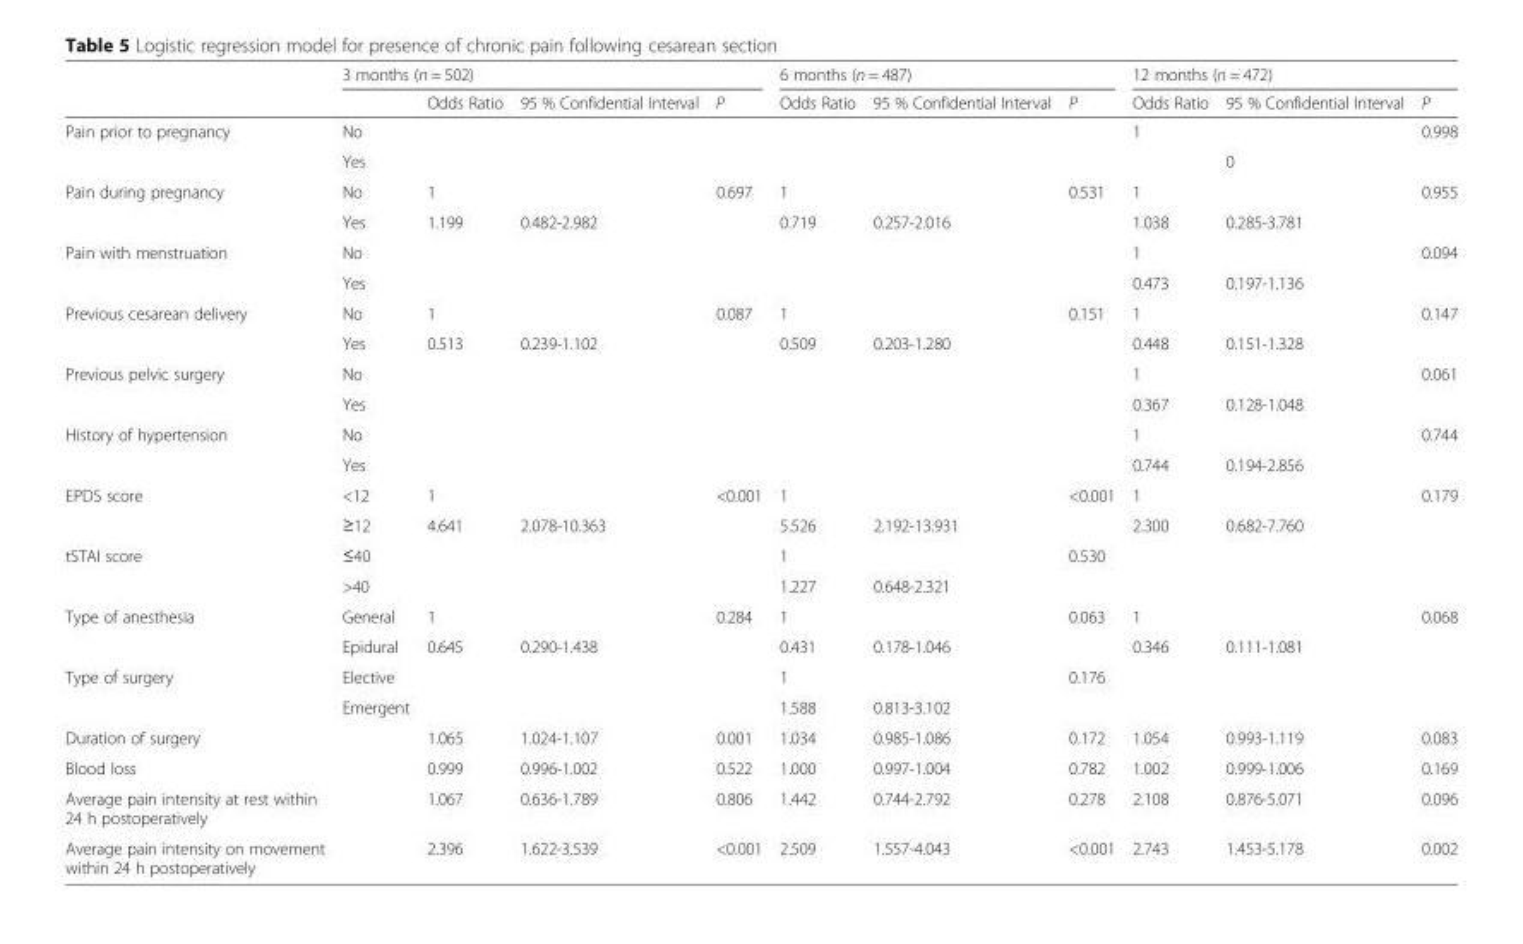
<table><thead><tr><td rowspan="2"></td><td colspan="4">3 months (n = 502)</td><td colspan="3">6 months (n = 487)</td><td colspan="3">12 months (n = 472)</td></tr><tr><td></td><td>Odds Ratio</td><td>95 % Confidential Interval</td><td>P</td><td>Odds Ratio</td><td>95 % Confidential Interval</td><td>P</td><td>Odds Ratio</td><td>95 % Confidential Interval</td><td>P</td></tr></thead><tbody><tr><td rowspan="2">Pain prior to pregnancy</td><td>No</td><td></td><td></td><td></td><td></td><td></td><td></td><td>1</td><td></td><td>0.998</td></tr><tr><td>Yes</td><td></td><td></td><td></td><td></td><td></td><td></td><td></td><td>0</td><td></td></tr><tr><td rowspan="2">Pain during pregnancy</td><td>No</td><td>1</td><td></td><td>0.697</td><td>1</td><td></td><td>0.531</td><td>1</td><td></td><td>0.955</td></tr><tr><td>Yes</td><td>1.199</td><td>0.482-2.982</td><td></td><td>0.719</td><td>0.257-2.016</td><td></td><td>1.038</td><td>0.285-3.781</td><td></td></tr><tr><td rowspan="2">Pain with menstruation</td><td>No</td><td></td><td></td><td></td><td></td><td></td><td></td><td>1</td><td></td><td>0.094</td></tr><tr><td>Yes</td><td></td><td></td><td></td><td></td><td></td><td></td><td>0.473</td><td>0.197-1.136</td><td></td></tr><tr><td rowspan="2">Previous cesarean delivery</td><td>No</td><td>1</td><td></td><td>0.087</td><td>1</td><td></td><td>0.151</td><td>1</td><td></td><td>0.147</td></tr><tr><td>Yes</td><td>0.513</td><td>0.239-1.102</td><td></td><td>0.509</td><td>0.203-1.280</td><td></td><td>0.448</td><td>0.151-1.328</td><td></td></tr><tr><td rowspan="2">Previous pelvic surgery</td><td>No</td><td></td><td></td><td></td><td></td><td></td><td></td><td>1</td><td></td><td>0.061</td></tr><tr><td>Yes</td><td></td><td></td><td></td><td></td><td></td><td></td><td>0.367</td><td>0.128-1.048</td><td></td></tr><tr><td rowspan="2">History of hypertension</td><td>No</td><td></td><td></td><td></td><td></td><td></td><td></td><td>1</td><td></td><td>0.744</td></tr><tr><td>Yes</td><td></td><td></td><td></td><td></td><td></td><td></td><td>0.744</td><td>0.194-2.856</td><td></td></tr><tr><td rowspan="2">EPDS score</td><td>&lt;12</td><td>1</td><td></td><td>&lt;0.001</td><td>1</td><td></td><td>&lt;0.001</td><td>1</td><td></td><td>0.179</td></tr><tr><td>≥12</td><td>4.641</td><td>2.078-10.363</td><td></td><td>5.526</td><td>2.192-13.931</td><td></td><td>2.300</td><td>0.682-7.760</td><td></td></tr><tr><td rowspan="2">tSTAI score</td><td>≤40</td><td></td><td></td><td></td><td>1</td><td></td><td>0.530</td><td></td><td></td><td></td></tr><tr><td>&gt;40</td><td></td><td></td><td></td><td>1.227</td><td>0.648-2.321</td><td></td><td></td><td></td><td></td></tr><tr><td rowspan="2">Type of anesthesia</td><td>General</td><td>1</td><td></td><td>0.284</td><td>1</td><td></td><td>0.063</td><td>1</td><td></td><td>0.068</td></tr><tr><td>Epidural</td><td>0.645</td><td>0.290-1.438</td><td></td><td>0.431</td><td>0.178-1.046</td><td></td><td>0.346</td><td>0.111-1.081</td><td></td></tr><tr><td rowspan="2">Type of surgery</td><td>Elective</td><td></td><td></td><td></td><td>1</td><td></td><td>0.176</td><td></td><td></td><td></td></tr><tr><td>Emergent</td><td></td><td></td><td></td><td>1.588</td><td>0.813-3.102</td><td></td><td></td><td></td><td></td></tr><tr><td>Duration of surgery</td><td></td><td>1.065</td><td>1.024-1.107</td><td>0.001</td><td>1.034</td><td>0.985-1.086</td><td>0.172</td><td>1.054</td><td>0.993-1.119</td><td>0.083</td></tr><tr><td>Blood loss</td><td></td><td>0.999</td><td>0.996-1.002</td><td>0.522</td><td>1.000</td><td>0.997-1.004</td><td>0.782</td><td>1.002</td><td>0.999-1.006</td><td>0.169</td></tr><tr><td>Average pain intensity at rest within 24 h postoperatively</td><td></td><td>1.067</td><td>0.636-1.789</td><td>0.806</td><td>1.442</td><td>0.744-2.792</td><td>0.278</td><td>2.108</td><td>0.876-5.071</td><td>0.096</td></tr><tr><td>Average pain intensity on movement within 24 h postoperatively</td><td></td><td>2.396</td><td>1.622-3.539</td><td>&lt;0.001</td><td>2.509</td><td>1.557-4.043</td><td>&lt;0.001</td><td>2.743</td><td>1.453-5.178</td><td>0.002</td></tr></tbody></table>